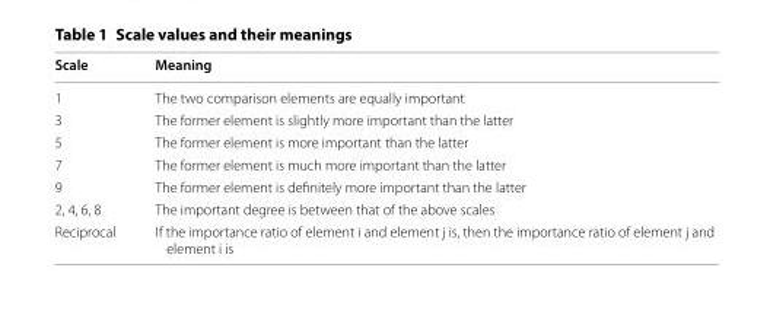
<table><thead><tr><td>Scale</td><td>Meaning</td></tr></thead><tbody><tr><td>1</td><td>The two comparison elements are equally important</td></tr><tr><td>3</td><td>The former element is slightly more important than the latter</td></tr><tr><td>5</td><td>The former element is more important than the latter</td></tr><tr><td>7</td><td>The former element is much more important than the latter</td></tr><tr><td>9</td><td>The former element is definitely more important than the latter</td></tr><tr><td>2, 4, 6, 8</td><td>The important degree is between that of the above scales</td></tr><tr><td>Reciprocal</td><td>If the importance ratio of element i and element j is, then the importance ratio of element j and element i is</td></tr></tbody></table>